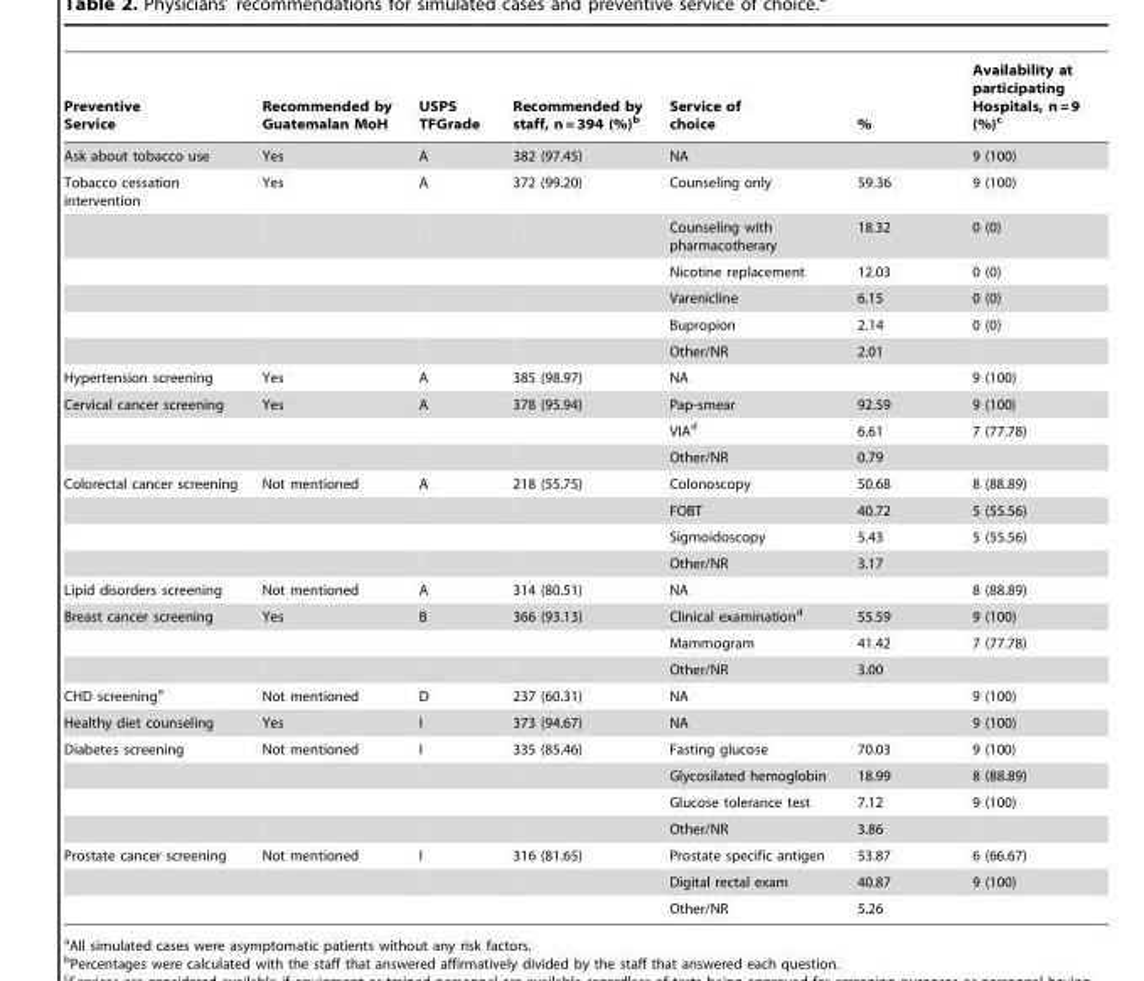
<table><thead><tr><td>Preventive Service</td><td>Recommended by Guatemalan MoH</td><td>USPS TFGrade</td><td>Recommended by staff, n = 394 (%)<sup>b</sup></td><td>Service of choice</td><td>%</td><td>Availability at participating Hospitals, n = 9 (%)<sup>c</sup></td></tr></thead><tbody><tr><td>Ask about tobacco use</td><td>Yes</td><td>A</td><td>382 (97.45)</td><td>NA</td><td></td><td>9 (100)</td></tr><tr><td rowspan="6">Tobacco cessation intervention</td><td>Yes</td><td>A</td><td>372 (99.20)</td><td>Counseling only</td><td>59.36</td><td>9 (100)</td></tr><tr><td></td><td></td><td></td><td>Counseling with pharmacotherary</td><td>18.32</td><td>0 (0)</td></tr><tr><td></td><td></td><td></td><td>Nicotine replacement</td><td>12.03</td><td>0 (0)</td></tr><tr><td></td><td></td><td></td><td>Varenicline</td><td>6.15</td><td>0 (0)</td></tr><tr><td></td><td></td><td></td><td>Bupropion</td><td>2.14</td><td>0 (0)</td></tr><tr><td></td><td></td><td></td><td>Other/NR</td><td>2.01</td><td></td></tr><tr><td>Hypertension screening</td><td>Yes</td><td>A</td><td>385 (98.97)</td><td>NA</td><td></td><td>9 (100)</td></tr><tr><td rowspan="3">Cervical cancer screening</td><td>Yes</td><td>A</td><td>378 (95.94)</td><td>Pap-smear</td><td>92.59</td><td>9 (100)</td></tr><tr><td></td><td></td><td></td><td>VIA<sup>d</sup></td><td>6.61</td><td>7 (77.78)</td></tr><tr><td></td><td></td><td></td><td>Other/NR</td><td>0.79</td><td></td></tr><tr><td rowspan="4">Colorectal cancer screening</td><td>Not mentioned</td><td>A</td><td>218 (55.75)</td><td>Colonoscopy</td><td>50.68</td><td>8 (88.89)</td></tr><tr><td></td><td></td><td></td><td>FOBT</td><td>40.72</td><td>5 (55.56)</td></tr><tr><td></td><td></td><td></td><td>Sigmoidoscopy</td><td>5.43</td><td>5 (55.56)</td></tr><tr><td></td><td></td><td></td><td>Other/NR</td><td>3.17</td><td></td></tr><tr><td>Lipid disorders screening</td><td>Not mentioned</td><td>A</td><td>314 (80.51)</td><td>NA</td><td></td><td>8 (88.89)</td></tr><tr><td rowspan="3">Breast cancer screening</td><td>Yes</td><td>B</td><td>366 (93.13)</td><td>Clinical examination<sup>d</sup></td><td>55.59</td><td>9 (100)</td></tr><tr><td></td><td></td><td></td><td>Mammogram</td><td>41.42</td><td>7 (77.78)</td></tr><tr><td></td><td></td><td></td><td>Other/NR</td><td>3.00</td><td></td></tr><tr><td>CHD screening<sup>e</sup></td><td>Not mentioned</td><td>D</td><td>237 (60.31)</td><td>NA</td><td></td><td>9 (100)</td></tr><tr><td>Healthy diet counseling</td><td>Yes</td><td>I</td><td>373 (94.67)</td><td>NA</td><td></td><td>9 (100)</td></tr><tr><td rowspan="4">Diabetes screening</td><td>Not mentioned</td><td>I</td><td>335 (85.46)</td><td>Fasting glucose</td><td>70.03</td><td>9 (100)</td></tr><tr><td></td><td></td><td></td><td>Glycosilated hemoglobin</td><td>18.99</td><td>8 (88.89)</td></tr><tr><td></td><td></td><td></td><td>Glucose tolerance test</td><td>7.12</td><td>9 (100)</td></tr><tr><td></td><td></td><td></td><td>Other/NR</td><td>3.86</td><td></td></tr><tr><td rowspan="3">Prostate cancer screening</td><td>Not mentioned</td><td>I</td><td>316 (81.65)</td><td>Prostate specific antigen</td><td>53.87</td><td>6 (66.67)</td></tr><tr><td></td><td></td><td></td><td>Digital rectal exam</td><td>40.87</td><td>9 (100)</td></tr><tr><td></td><td></td><td></td><td>Other/NR</td><td>5.26</td><td></td></tr></tbody></table>